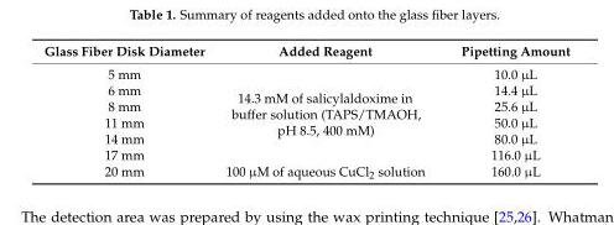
<table><thead><tr><td>Glass Fiber Disk Diameter</td><td>Added Reagent</td><td>Pipetting Amount</td></tr></thead><tbody><tr><td>5 mm</td><td rowspan="6">14.3 mM of salicylaldoxime in buffer solution (TAPS/TMAOH, pH 8.5, 400 mM)</td><td>10.0 µL</td></tr><tr><td>6 mm</td><td>14.4 µL</td></tr><tr><td>8 mm</td><td>25.6 µL</td></tr><tr><td>11 mm</td><td>50.0 µL</td></tr><tr><td>14 mm</td><td>80.0 µL</td></tr><tr><td>17 mm</td><td>116.0 µL</td></tr><tr><td>20 mm</td><td>100 µM of aqueous CuCl<sub>2</sub> solution</td><td>160.0 µL</td></tr></tbody></table>